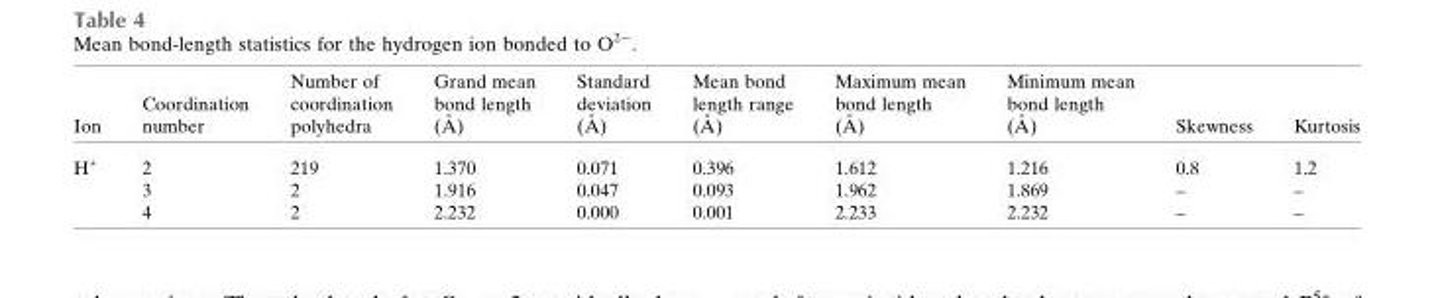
<table><thead><tr><td>Ion</td><td>Coordination number</td><td>Number of coordination polyhedra</td><td>Grand mean bond length (A˚ )</td><td>Standard deviation (A˚ )</td><td>Mean bond length range (A˚ )</td><td>Maximum mean bond length (A˚ )</td><td>Minimum mean bond length (A˚ )</td><td>Skewness</td><td>Kurtosis</td></tr></thead><tbody><tr><td rowspan="3">H<sup>+</sup></td><td>2</td><td>219</td><td>1.370</td><td>0.071</td><td>0.396</td><td>1.612</td><td>1.216</td><td>0.8</td><td>1.2</td></tr><tr><td>3</td><td>2</td><td>1.916</td><td>0.047</td><td>0.093</td><td>1.962</td><td>1.869</td><td>–</td><td>–</td></tr><tr><td>4</td><td>2</td><td>2.232</td><td>0.000</td><td>0.001</td><td>2.233</td><td>2.232</td><td>–</td><td>–</td></tr></tbody></table>